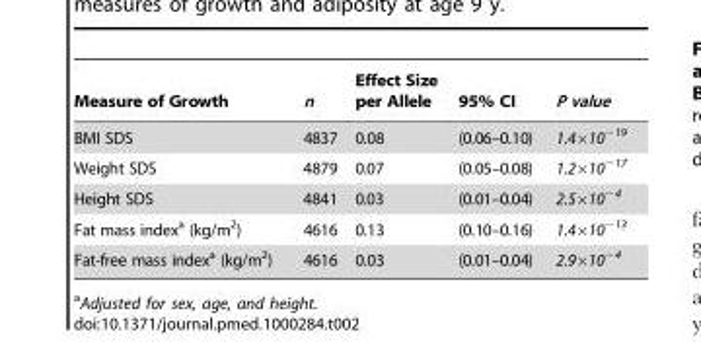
<table><thead><tr><td>Measure of Growth</td><td>n</td><td>Effect Size per Allele</td><td>95% CI</td><td>P value</td></tr></thead><tbody><tr><td>BMI SDS</td><td>4837</td><td>0.08</td><td>(0.06–0.10)</td><td>1.4×10<sup>−19</sup></td></tr><tr><td>Weight SDS</td><td>4879</td><td>0.07</td><td>(0.05–0.08)</td><td>1.2×10<sup>−17</sup></td></tr><tr><td>Height SDS</td><td>4841</td><td>0.03</td><td>(0.01–0.04)</td><td>2.5×10<sup>−4</sup></td></tr><tr><td>Fat mass index<sup>a</sup> (kg/m<sup>2</sup>)</td><td>4616</td><td>0.13</td><td>(0.10–0.16)</td><td>1.4×10<sup>−13</sup></td></tr><tr><td>Fat-free mass index<sup>a</sup> (kg/m<sup>2</sup>)</td><td>4616</td><td>0.03</td><td>(0.01–0.04)</td><td>2.9×10<sup>−4</sup></td></tr></tbody></table>